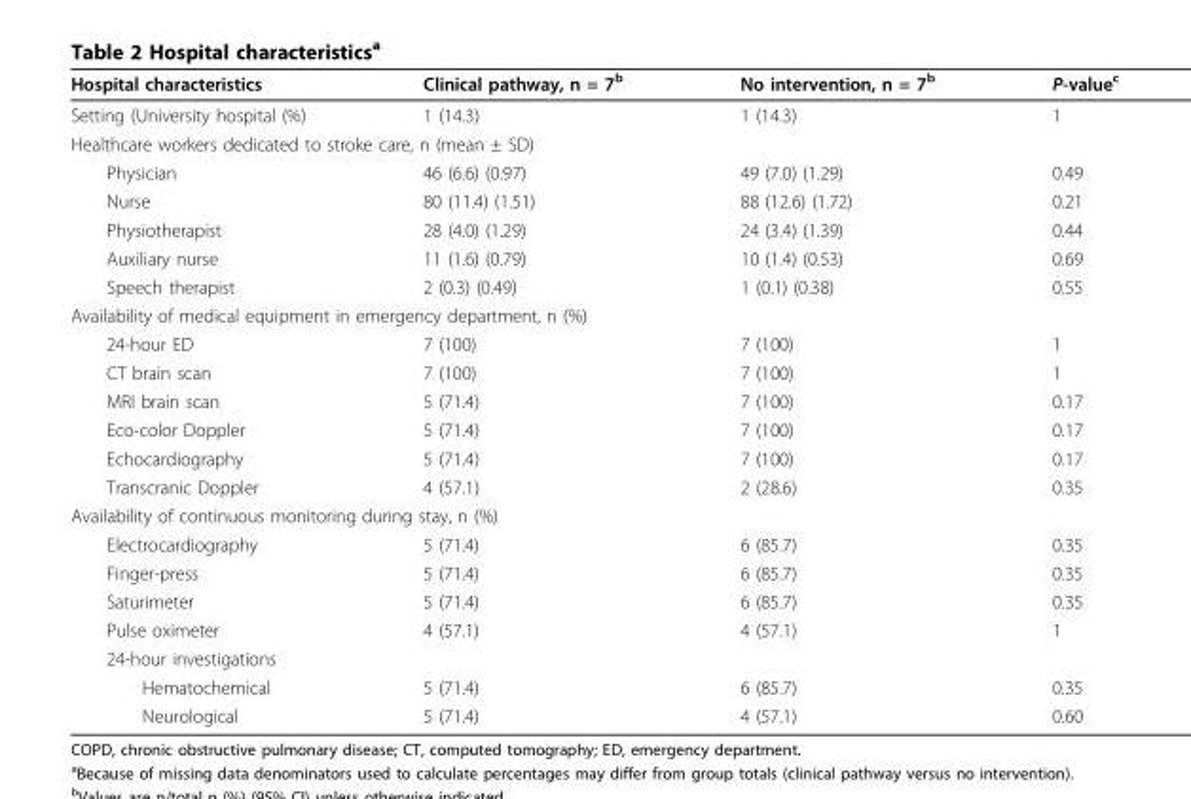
<table><thead><tr><td>Hospital characteristics</td><td>Clinical pathway, n = 7<sup>b</sup></td><td>No intervention, n = 7<sup>b</sup></td><td>P-value<sup>c</sup></td></tr></thead><tbody><tr><td>Setting (University hospital (%)</td><td>1 (14.3)</td><td>1 (14.3)</td><td>1</td></tr><tr><td colspan="4">Healthcare workers dedicated to stroke care, n (mean ± SD)</td></tr><tr><td>Physician</td><td>46 (6.6) (0.97)</td><td>49 (7.0) (1.29)</td><td>0.49</td></tr><tr><td>Nurse</td><td>80 (11.4) (1.51)</td><td>88 (12.6) (1.72)</td><td>0.21</td></tr><tr><td>Physiotherapist</td><td>28 (4.0) (1.29)</td><td>24 (3.4) (1.39)</td><td>0.44</td></tr><tr><td>Auxiliary nurse</td><td>11 (1.6) (0.79)</td><td>10 (1.4) (0.53)</td><td>0.69</td></tr><tr><td>Speech therapist</td><td>2 (0.3) (0.49)</td><td>1 (0.1) (0.38)</td><td>0.55</td></tr><tr><td colspan="4">Availability of medical equipment in emergency department, n (%)</td></tr><tr><td>24-hour ED</td><td>7 (100)</td><td>7 (100)</td><td>1</td></tr><tr><td>CT brain scan</td><td>7 (100)</td><td>7 (100)</td><td>1</td></tr><tr><td>MRI brain scan</td><td>5 (71.4)</td><td>7 (100)</td><td>0.17</td></tr><tr><td>Eco-color Doppler</td><td>5 (71.4)</td><td>7 (100)</td><td>0.17</td></tr><tr><td>Echocardiography</td><td>5 (71.4)</td><td>7 (100)</td><td>0.17</td></tr><tr><td>Transcranic Doppler</td><td>4 (57.1)</td><td>2 (28.6)</td><td>0.35</td></tr><tr><td colspan="4">Availability of continuous monitoring during stay, n (%)</td></tr><tr><td>Electrocardiography</td><td>5 (71.4)</td><td>6 (85.7)</td><td>0.35</td></tr><tr><td>Finger-press</td><td>5 (71.4)</td><td>6 (85.7)</td><td>0.35</td></tr><tr><td>Saturimeter</td><td>5 (71.4)</td><td>6 (85.7)</td><td>0.35</td></tr><tr><td>Pulse oximeter</td><td>4 (57.1)</td><td>4 (57.1)</td><td>1</td></tr><tr><td colspan="4">24-hour investigations</td></tr><tr><td>Hematochemical</td><td>5 (71.4)</td><td>6 (85.7)</td><td>0.35</td></tr><tr><td>Neurological</td><td>5 (71.4)</td><td>4 (57.1)</td><td>0.60</td></tr></tbody></table>